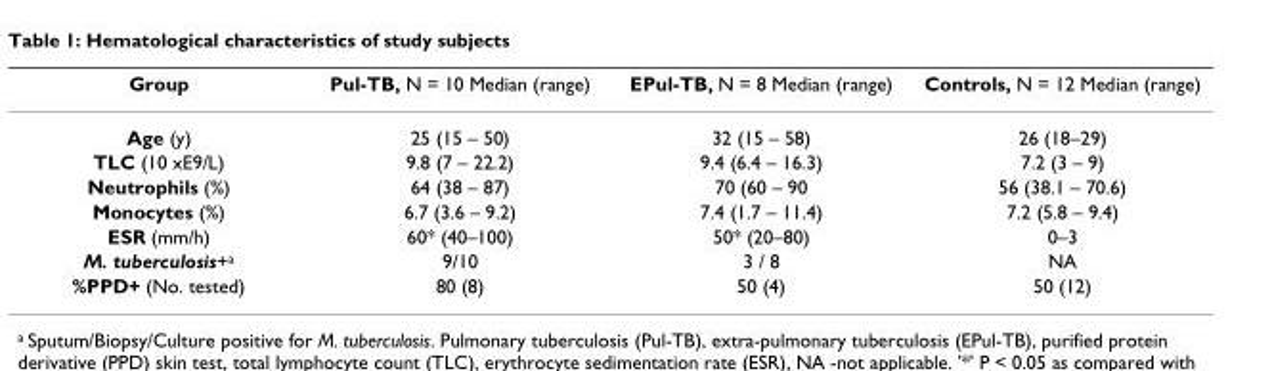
<table><thead><tr><td>Group</td><td>Pul-TB, N = 10 Median (range)</td><td>EPul-TB, N = 8 Median (range)</td><td>Controls, N = 12 Median (range)</td></tr></thead><tbody><tr><td>Age (y)</td><td>25 (15 – 50)</td><td>32 (15 – 58)</td><td>26 (18–29)</td></tr><tr><td>TLC (10 xE9/L)</td><td>9.8 (7 – 22.2)</td><td>9.4 (6.4 – 16.3)</td><td>7.2 (3 – 9)</td></tr><tr><td>Neutrophils (%)</td><td>64 (38 – 87)</td><td>70 (60 – 90</td><td>56 (38.1 – 70.6)</td></tr><tr><td>Monocytes (%)</td><td>6.7 (3.6 – 9.2)</td><td>7.4 (1.7 – 11.4)</td><td>7.2 (5.8 – 9.4)</td></tr><tr><td>ESR (mm/h)</td><td>60* (40–100)</td><td>50* (20–80)</td><td>0–3</td></tr><tr><td>M. tuberculosis+a</td><td>9/10</td><td>3 / 8</td><td>NA</td></tr><tr><td>%PPD+ (No. tested)</td><td>80 (8)</td><td>50 (4)</td><td>50 (12)</td></tr></tbody></table>